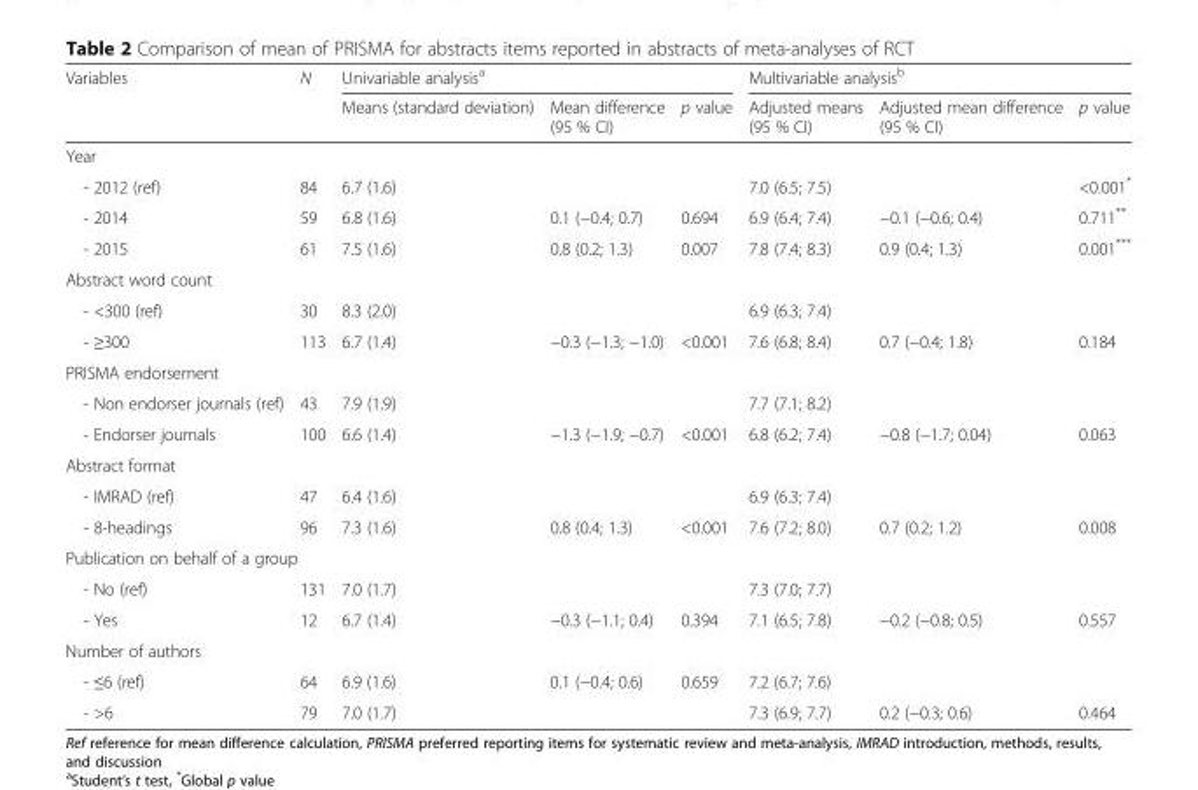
<table><thead><tr><td rowspan="2">Variables</td><td rowspan="2">N</td><td colspan="3">Univariable analysis<sup>a</sup></td><td colspan="3">Multivariable analysis<sup>b</sup></td></tr><tr><td>Means (standard deviation)</td><td>Mean difference (95 % CI)</td><td>p value</td><td>Adjusted means (95 % CI)</td><td>Adjusted mean difference (95 % CI)</td><td>p value</td></tr></thead><tbody><tr><td colspan="8">Year</td></tr><tr><td>- 2012 (ref)</td><td>84</td><td>6.7 (1.6)</td><td></td><td></td><td>7.0 (6.5; 7.5)</td><td></td><td>&lt;0.001*</td></tr><tr><td>- 2014</td><td>59</td><td>6.8 (1.6)</td><td>0.1 (−0.4; 0.7)</td><td>0.694</td><td>6.9 (6.4; 7.4)</td><td>−0.1 (−0.6; 0.4)</td><td>0.711**</td></tr><tr><td>- 2015</td><td>61</td><td>7.5 (1.6)</td><td>0.8 (0.2; 1.3)</td><td>0.007</td><td>7.8 (7.4; 8.3)</td><td>0.9 (0.4; 1.3)</td><td>0.001***</td></tr><tr><td colspan="8">Abstract word count</td></tr><tr><td>- &lt;300 (ref)</td><td>30</td><td>8.3 (2.0)</td><td></td><td></td><td>6.9 (6.3; 7.4)</td><td></td><td></td></tr><tr><td>- ≥300</td><td>113</td><td>6.7 (1.4)</td><td>−0.3 (−1.3; −1.0)</td><td>&lt;0.001</td><td>7.6 (6.8; 8.4)</td><td>0.7 (−0.4; 1.8)</td><td>0.184</td></tr><tr><td colspan="8">PRISMA endorsement</td></tr><tr><td>- Non endorser journals (ref)</td><td>43</td><td>7.9 (1.9)</td><td></td><td></td><td>7.7 (7.1; 8.2)</td><td></td><td></td></tr><tr><td>- Endorser journals</td><td>100</td><td>6.6 (1.4)</td><td>−1.3 (−1.9; −0.7)</td><td>&lt;0.001</td><td>6.8 (6.2; 7.4)</td><td>−0.8 (−1.7; 0.04)</td><td>0.063</td></tr><tr><td colspan="8">Abstract format</td></tr><tr><td>- IMRAD (ref)</td><td>47</td><td>6.4 (1.6)</td><td></td><td></td><td>6.9 (6.3; 7.4)</td><td></td><td></td></tr><tr><td>- 8-headings</td><td>96</td><td>7.3 (1.6)</td><td>0.8 (0.4; 1.3)</td><td>&lt;0.001</td><td>7.6 (7.2; 8.0)</td><td>0.7 (0.2; 1.2)</td><td>0.008</td></tr><tr><td colspan="8">Publication on behalf of a group</td></tr><tr><td>- No (ref)</td><td>131</td><td>7.0 (1.7)</td><td></td><td></td><td>7.3 (7.0; 7.7)</td><td></td><td></td></tr><tr><td>- Yes</td><td>12</td><td>6.7 (1.4)</td><td>−0.3 (−1.1; 0.4)</td><td>0.394</td><td>7.1 (6.5; 7.8)</td><td>−0.2 (−0.8; 0.5)</td><td>0.557</td></tr><tr><td colspan="8">Number of authors</td></tr><tr><td>- ≤6 (ref)</td><td>64</td><td>6.9 (1.6)</td><td>0.1 (−0.4; 0.6)</td><td>0.659</td><td>7.2 (6.7; 7.6)</td><td></td><td></td></tr><tr><td>- &gt;6</td><td>79</td><td>7.0 (1.7)</td><td></td><td></td><td>7.3 (6.9; 7.7)</td><td>0.2 (−0.3; 0.6)</td><td>0.464</td></tr></tbody></table>